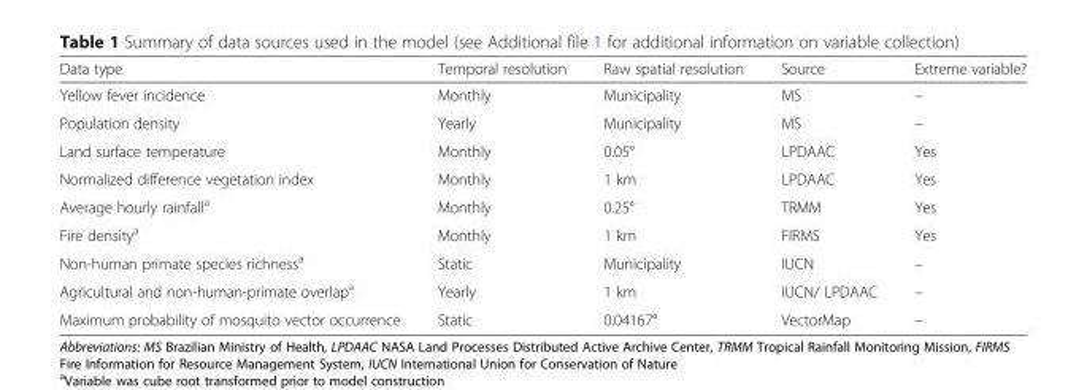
<table><thead><tr><td>Data type</td><td>Temporal resolution</td><td>Raw spatial resolution</td><td>Source</td><td>Extreme variable?</td></tr></thead><tbody><tr><td>Yellow fever incidence</td><td>Monthly</td><td>Municipality</td><td>MS</td><td>–</td></tr><tr><td>Population density</td><td>Yearly</td><td>Municipality</td><td>MS</td><td>–</td></tr><tr><td>Land surface temperature</td><td>Monthly</td><td>0.05°</td><td>LPDAAC</td><td>Yes</td></tr><tr><td>Normalized difference vegetation index</td><td>Monthly</td><td>1 km</td><td>LPDAAC</td><td>Yes</td></tr><tr><td>Average hourly rainfall<sup>a</sup></td><td>Monthly</td><td>0.25°</td><td>TRMM</td><td>Yes</td></tr><tr><td>Fire density<sup>a</sup></td><td>Monthly</td><td>1 km</td><td>FIRMS</td><td>Yes</td></tr><tr><td>Non-human primate species richness<sup>a</sup></td><td>Static</td><td>Municipality</td><td>IUCN</td><td>–</td></tr><tr><td>Agricultural and non-human-primate overlap<sup>a</sup></td><td>Yearly</td><td>1 km</td><td>IUCN/ LPDAAC</td><td>–</td></tr><tr><td>Maximum probability of mosquito vector occurrence</td><td>Static</td><td>0.04167°</td><td>VectorMap</td><td>–</td></tr></tbody></table>